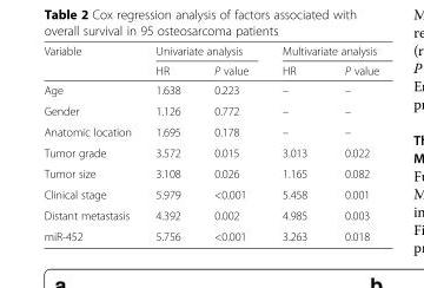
<table><thead><tr><td rowspan="2">Variable</td><td colspan="2">Univariate analysis</td><td colspan="2">Multivariate analysis</td></tr><tr><td>HR</td><td>P value</td><td>HR</td><td>P value</td></tr></thead><tbody><tr><td>Age</td><td>1.638</td><td>0.223</td><td>–</td><td>–</td></tr><tr><td>Gender</td><td>1.126</td><td>0.772</td><td>–</td><td>–</td></tr><tr><td>Anatomic location</td><td>1.695</td><td>0.178</td><td>–</td><td>–</td></tr><tr><td>Tumor grade</td><td>3.572</td><td>0.015</td><td>3.013</td><td>0.022</td></tr><tr><td>Tumor size</td><td>3.108</td><td>0.026</td><td>1.165</td><td>0.082</td></tr><tr><td>Clinical stage</td><td>5.979</td><td>&lt;0.001</td><td>5.458</td><td>0.001</td></tr><tr><td>Distant metastasis</td><td>4.392</td><td>0.002</td><td>4.985</td><td>0.003</td></tr><tr><td>miR-452</td><td>5.756</td><td>&lt;0.001</td><td>3.263</td><td>0.018</td></tr></tbody></table>